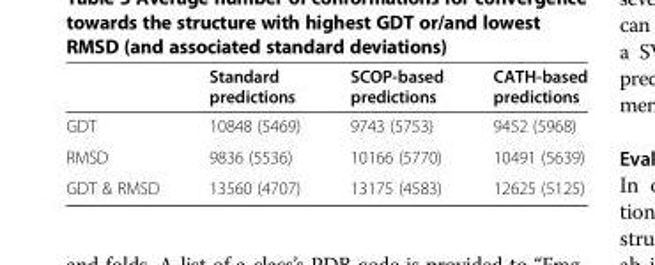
<table><thead><tr><td></td><td>Standard predictions</td><td>SCOP-based predictions</td><td>CATH-based predictions</td></tr></thead><tbody><tr><td>GDT</td><td>10848 (5469)</td><td>9743 (5753)</td><td>9452 (5968)</td></tr><tr><td>RMSD</td><td>9836 (5536)</td><td>10166 (5770)</td><td>10491 (5639)</td></tr><tr><td>GDT &amp; RMSD</td><td>13560 (4707)</td><td>13175 (4583)</td><td>12625 (5125)</td></tr></tbody></table>